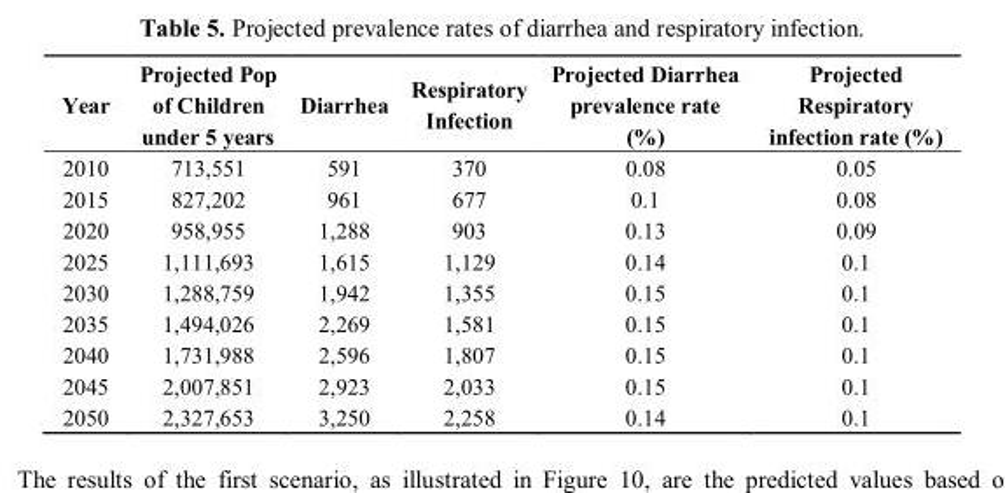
<table><thead><tr><td>Year</td><td>Projected Pop of Children under 5 years</td><td>Diarrhea</td><td>Respiratory Infection</td><td>Projected Diarrhea prevalence rate (%)</td><td>Projected Respiratory infection rate (%)</td></tr></thead><tbody><tr><td>2010</td><td>713,551</td><td>591</td><td>370</td><td>0.08</td><td>0.05</td></tr><tr><td>2015</td><td>827,202</td><td>961</td><td>677</td><td>0.1</td><td>0.08</td></tr><tr><td>2020</td><td>958,955</td><td>1,288</td><td>903</td><td>0.13</td><td>0.09</td></tr><tr><td>2025</td><td>1,111,693</td><td>1,615</td><td>1,129</td><td>0.14</td><td>0.1</td></tr><tr><td>2030</td><td>1,288,759</td><td>1,942</td><td>1,355</td><td>0.15</td><td>0.1</td></tr><tr><td>2035</td><td>1,494,026</td><td>2,269</td><td>1,581</td><td>0.15</td><td>0.1</td></tr><tr><td>2040</td><td>1,731,988</td><td>2,596</td><td>1,807</td><td>0.15</td><td>0.1</td></tr><tr><td>2045</td><td>2,007,851</td><td>2,923</td><td>2,033</td><td>0.15</td><td>0.1</td></tr><tr><td>2050</td><td>2,327,653</td><td>3,250</td><td>2,258</td><td>0.14</td><td>0.1</td></tr></tbody></table>